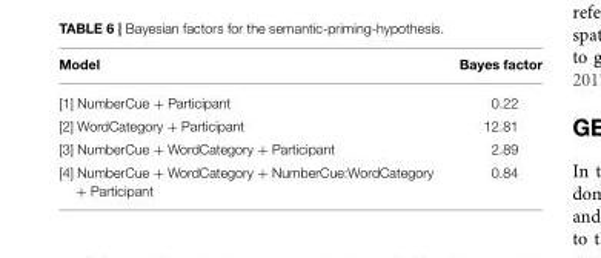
<table><thead><tr><td>Model</td><td>Bayes factor</td></tr></thead><tbody><tr><td>[1] NumberCue + Participant</td><td>0.22</td></tr><tr><td>[2] WordCategory + Participant</td><td>12.81</td></tr><tr><td>[3] NumberCue + WordCategory + Participant</td><td>2.89</td></tr><tr><td>[4] NumberCue + WordCategory + NumberCue:WordCategory + Participant</td><td>0.84</td></tr></tbody></table>